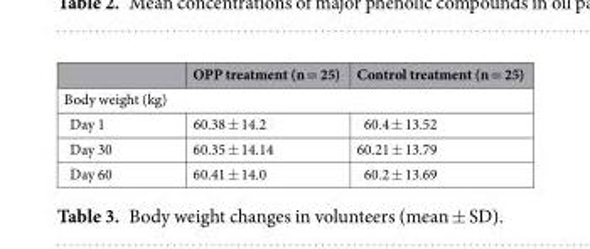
<table><thead><tr><td></td><td>OPP treatment (n = 25)</td><td>Control treatment (n = 25)</td></tr></thead><tbody><tr><td colspan="3">Body weight (kg)</td></tr><tr><td>Day 1</td><td>60.38 ± 14.2</td><td>60.4 ± 13.52</td></tr><tr><td>Day 30</td><td>60.35 ± 14.14</td><td>60.21 ± 13.79</td></tr><tr><td>Day 60</td><td>60.41 ± 14.0</td><td>60.2 ± 13.69</td></tr></tbody></table>